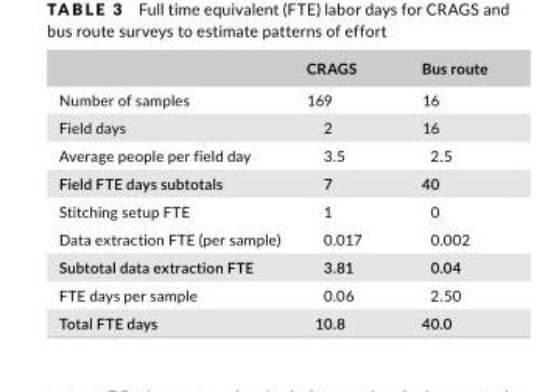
<table><thead><tr><td></td><td>CRAGS</td><td>Bus route</td></tr></thead><tbody><tr><td>Number of samples</td><td>169</td><td>16</td></tr><tr><td>Field days</td><td>2</td><td>16</td></tr><tr><td>Average people per field day</td><td>3.5</td><td>2.5</td></tr><tr><td>Field FTE days subtotals</td><td>7</td><td>40</td></tr><tr><td>Stitching setup FTE</td><td>1</td><td>0</td></tr><tr><td>Data extraction FTE (per sample)</td><td>0.017</td><td>0.002</td></tr><tr><td>Subtotal data extraction FTE</td><td>3.81</td><td>0.04</td></tr><tr><td>FTE days per sample</td><td>0.06</td><td>2.50</td></tr><tr><td>Total FTE days</td><td>10.8</td><td>40.0</td></tr></tbody></table>